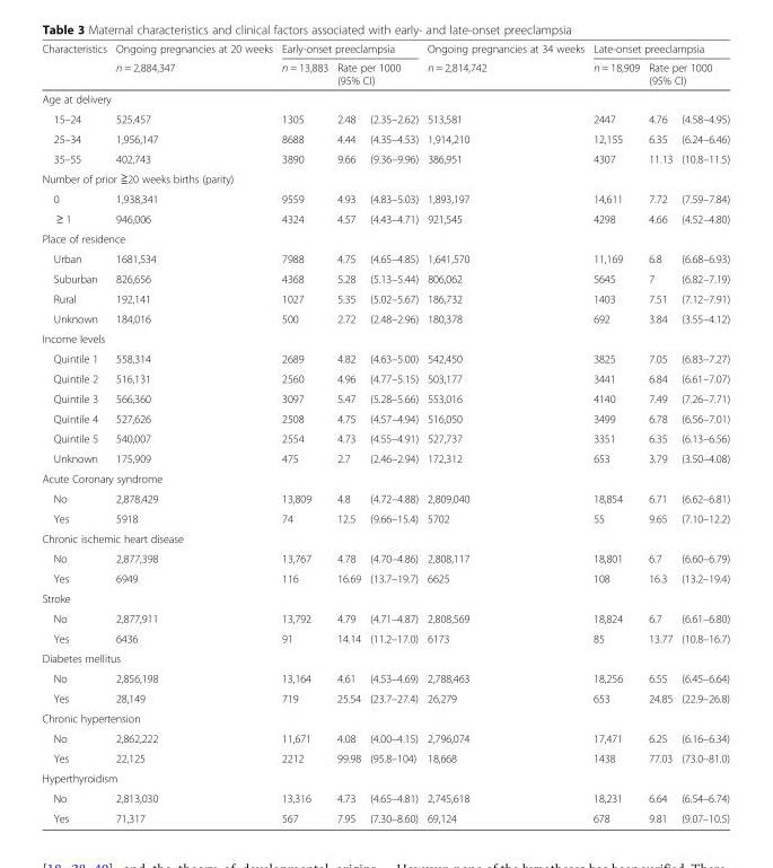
<table><thead><tr><td rowspan="2">Characteristics</td><td rowspan="2">Ongoing pregnancies at 20 weeks n = 2,884,347</td><td colspan="3">Early-onset preeclampsia</td><td rowspan="2">Ongoing pregnancies at 34 weeks n = 2,814,742</td><td colspan="3">Late-onset preeclampsia</td></tr><tr><td>n = 13,883</td><td colspan="2">Rate per 1000 (95% CI)</td><td>n = 18,909</td><td colspan="2">Rate per 1000 (95% CI)</td></tr><tr><td colspan="9">Age at delivery</td></tr><tr><td>15–24</td><td>525,457</td><td>1305</td><td>2.48</td><td>(2.35–2.62)</td><td>513,581</td><td>2447</td><td>4.76</td><td>(4.58–4.95)</td></tr></thead><tbody><tr><td>25–34</td><td>1,956,147</td><td>8688</td><td>4.44</td><td>(4.35–4.53)</td><td>1,914,210</td><td>12,155</td><td>6.35</td><td>(6.24–6.46)</td></tr><tr><td>35–55</td><td>402,743</td><td>3890</td><td>9.66</td><td>(9.36–9.96)</td><td>386,951</td><td>4307</td><td>11.13</td><td>(10.8–11.5)</td></tr><tr><td colspan="9">Number of prior ≧20 weeks births (parity)</td></tr><tr><td>0</td><td>1,938,341</td><td>9559</td><td>4.93</td><td>(4.83–5.03)</td><td>1,893,197</td><td>14,611</td><td>7.72</td><td>(7.59–7.84)</td></tr><tr><td>≥ 1</td><td>946,006</td><td>4324</td><td>4.57</td><td>(4.43–4.71)</td><td>921,545</td><td>4298</td><td>4.66</td><td>(4.52–4.80)</td></tr><tr><td colspan="9">Place of residence</td></tr><tr><td>Urban</td><td>1681,534</td><td>7988</td><td>4.75</td><td>(4.65–4.85)</td><td>1,641,570</td><td>11,169</td><td>6.8</td><td>(6.68–6.93)</td></tr><tr><td>Suburban</td><td>826,656</td><td>4368</td><td>5.28</td><td>(5.13–5.44)</td><td>806,062</td><td>5645</td><td>7</td><td>(6.82–7.19)</td></tr><tr><td>Rural</td><td>192,141</td><td>1027</td><td>5.35</td><td>(5.02–5.67)</td><td>186,732</td><td>1403</td><td>7.51</td><td>(7.12–7.91)</td></tr><tr><td>Unknown</td><td>184,016</td><td>500</td><td>2.72</td><td>(2.48–2.96)</td><td>180,378</td><td>692</td><td>3.84</td><td>(3.55–4.12)</td></tr><tr><td colspan="9">Income levels</td></tr><tr><td>Quintile 1</td><td>558,314</td><td>2689</td><td>4.82</td><td>(4.63–5.00)</td><td>542,450</td><td>3825</td><td>7.05</td><td>(6.83–7.27)</td></tr><tr><td>Quintile 2</td><td>516,131</td><td>2560</td><td>4.96</td><td>(4.77–5.15)</td><td>503,177</td><td>3441</td><td>6.84</td><td>(6.61–7.07)</td></tr><tr><td>Quintile 3</td><td>566,360</td><td>3097</td><td>5.47</td><td>(5.28–5.66)</td><td>553,016</td><td>4140</td><td>7.49</td><td>(7.26–7.71)</td></tr><tr><td>Quintile 4</td><td>527,626</td><td>2508</td><td>4.75</td><td>(4.57–4.94)</td><td>516,050</td><td>3499</td><td>6.78</td><td>(6.56–7.01)</td></tr><tr><td>Quintile 5</td><td>540,007</td><td>2554</td><td>4.73</td><td>(4.55–4.91)</td><td>527,737</td><td>3351</td><td>6.35</td><td>(6.13–6.56)</td></tr><tr><td>Unknown</td><td>175,909</td><td>475</td><td>2.7</td><td>(2.46–2.94)</td><td>172,312</td><td>653</td><td>3.79</td><td>(3.50–4.08)</td></tr><tr><td colspan="9">Acute Coronary syndrome</td></tr><tr><td>No</td><td>2,878,429</td><td>13,809</td><td>4.8</td><td>(4.72–4.88)</td><td>2,809,040</td><td>18,854</td><td>6.71</td><td>(6.62–6.81)</td></tr><tr><td>Yes</td><td>5918</td><td>74</td><td>12.5</td><td>(9.66–15.4)</td><td>5702</td><td>55</td><td>9.65</td><td>(7.10–12.2)</td></tr><tr><td colspan="9">Chronic ischemic heart disease</td></tr><tr><td>No</td><td>2,877,398</td><td>13,767</td><td>4.78</td><td>(4.70–4.86)</td><td>2,808,117</td><td>18,801</td><td>6.7</td><td>(6.60–6.79)</td></tr><tr><td>Yes</td><td>6949</td><td>116</td><td>16.69</td><td>(13.7–19.7)</td><td>6625</td><td>108</td><td>16.3</td><td>(13.2–19.4)</td></tr><tr><td colspan="9">Stroke</td></tr><tr><td>No</td><td>2,877,911</td><td>13,792</td><td>4.79</td><td>(4.71–4.87)</td><td>2,808,569</td><td>18,824</td><td>6.7</td><td>(6.61–6.80)</td></tr><tr><td>Yes</td><td>6436</td><td>91</td><td>14.14</td><td>(11.2–17.0)</td><td>6173</td><td>85</td><td>13.77</td><td>(10.8–16.7)</td></tr><tr><td colspan="9">Diabetes mellitus</td></tr><tr><td>No</td><td>2,856,198</td><td>13,164</td><td>4.61</td><td>(4.53–4.69)</td><td>2,788,463</td><td>18,256</td><td>6.55</td><td>(6.45–6.64)</td></tr><tr><td>Yes</td><td>28,149</td><td>719</td><td>25.54</td><td>(23.7–27.4)</td><td>26,279</td><td>653</td><td>24.85</td><td>(22.9–26.8)</td></tr><tr><td colspan="9">Chronic hypertension</td></tr><tr><td>No</td><td>2,862,222</td><td>11,671</td><td>4.08</td><td>(4.00–4.15)</td><td>2,796,074</td><td>17,471</td><td>6.25</td><td>(6.16–6.34)</td></tr><tr><td>Yes</td><td>22,125</td><td>2212</td><td>99.98</td><td>(95.8–104)</td><td>18,668</td><td>1438</td><td>77.03</td><td>(73.0–81.0)</td></tr><tr><td colspan="9">Hyperthyroidism</td></tr><tr><td>No</td><td>2,813,030</td><td>13,316</td><td>4.73</td><td>(4.65–4.81)</td><td>2,745,618</td><td>18,231</td><td>6.64</td><td>(6.54–6.74)</td></tr><tr><td>Yes</td><td>71,317</td><td>567</td><td>7.95</td><td>(7.30–8.60)</td><td>69,124</td><td>678</td><td>9.81</td><td>(9.07–10.5)</td></tr></tbody></table>